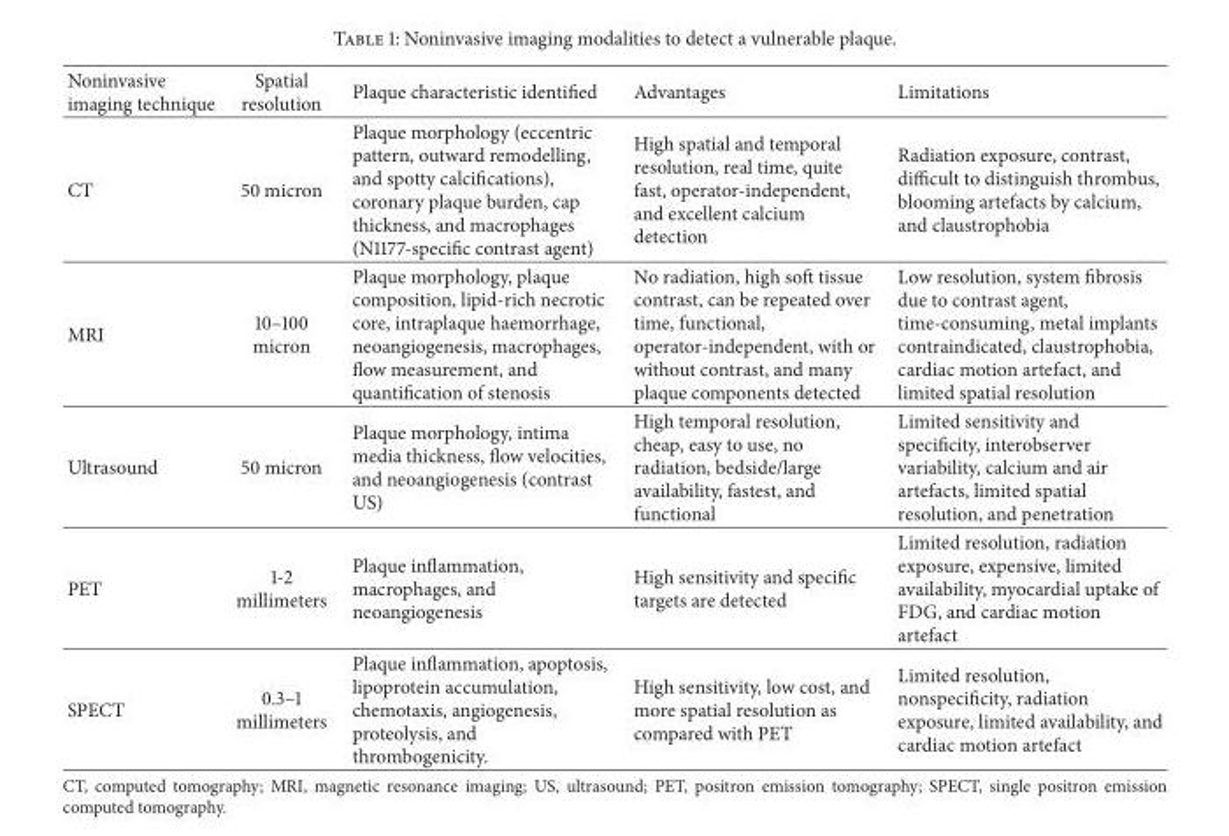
<table><thead><tr><td>Noninvasive imaging technique</td><td>Spatial resolution</td><td>Plaque characteristic identified</td><td>Advantages</td><td>Limitations</td></tr></thead><tbody><tr><td>CT</td><td>50 micron</td><td>Plaque morphology (eccentric pattern, outward remodelling, and spotty calcifications), coronary plaque burden, cap thickness, and macrophages (N1177-specific contrast agent)</td><td>High spatial and temporal resolution, real time, quite fast, operator-independent, and excellent calcium detection</td><td>Radiation exposure, contrast, difficult to distinguish thrombus, blooming artefacts by calcium, and claustrophobia</td></tr><tr><td>MRI</td><td>10–100 micron</td><td>Plaque morphology, plaque composition, lipid-rich necrotic core, intraplaque haemorrhage, neoangiogenesis, macrophages, flow measurement, and quantification of stenosis</td><td>No radiation, high soft tissue contrast, can be repeated over time, functional, operator-independent, with or without contrast, and many plaque components detected</td><td>Low resolution, system fibrosis due to contrast agent, time-consuming, metal implants contraindicated, claustrophobia, cardiac motion artefact, and limited spatial resolution</td></tr><tr><td>Ultrasound</td><td>50 micron</td><td>Plaque morphology, intima media thickness, flow velocities, and neoangiogenesis (contrast US)</td><td>High temporal resolution, cheap, easy to use, no radiation, bedside/large availability, fastest, and functional</td><td>Limited sensitivity and specificity, interobserver variability, calcium and air artefacts, limited spatial resolution, and penetration</td></tr><tr><td>PET</td><td>1-2 millimeters</td><td>Plaque inflammation, macrophages, and neoangiogenesis</td><td>High sensitivity and specific targets are detected</td><td>Limited resolution, radiation exposure, expensive, limited availability, myocardial uptake of FDG, and cardiac motion artefact</td></tr><tr><td>SPECT</td><td>0.3–1 millimeters</td><td>Plaque inflammation, apoptosis, lipoprotein accumulation, chemotaxis, angiogenesis, proteolysis, and thrombogenicity.</td><td>High sensitivity, low cost, and more spatial resolution as compared with PET</td><td>Limited resolution, nonspecificity, radiation exposure, limited availability, and cardiac motion artefact</td></tr></tbody></table>